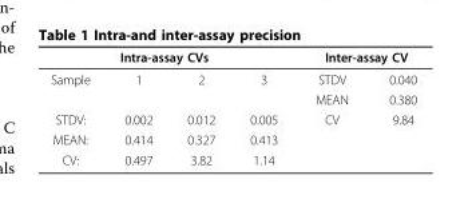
<table><tbody><tr><td colspan="4">Intra-assay CVs</td><td colspan="2">Inter-assay CV</td></tr><tr><td rowspan="2">Sample</td><td>1</td><td>2</td><td>3</td><td>STDV</td><td>0.040</td></tr><tr><td></td><td></td><td></td><td>MEAN</td><td>0.380</td></tr><tr><td>STDV:</td><td>0.002</td><td>0.012</td><td>0.005</td><td>CV</td><td>9.84</td></tr><tr><td>MEAN:</td><td>0.414</td><td>0.327</td><td>0.413</td><td></td><td></td></tr><tr><td>CV:</td><td>0.497</td><td>3.82</td><td>1.14</td><td></td><td></td></tr></tbody></table>